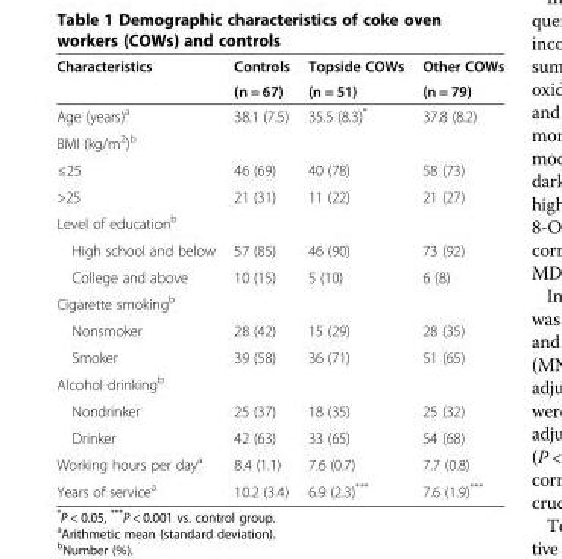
<table><thead><tr><td rowspan="2">Characteristics</td><td rowspan="2">Controls (n = 67)</td><td rowspan="2">Topside COWs (n = 51)</td><td rowspan="2">Other COWs (n = 79)</td></tr><tr></tr></thead><tbody><tr><td>Age (years)<sup>a</sup></td><td>38.1 (7.5)</td><td>35.5 (8.3)*</td><td>37.8 (8.2)</td></tr><tr><td colspan="4">BMI (kg/m<sup>2</sup>)<sup>b</sup></td></tr><tr><td>≤25</td><td>46 (69)</td><td>40 (78)</td><td>58 (73)</td></tr><tr><td>&gt;25</td><td>21 (31)</td><td>11 (22)</td><td>21 (27)</td></tr><tr><td colspan="4">Level of education<sup>b</sup></td></tr><tr><td>High school and below</td><td>57 (85)</td><td>46 (90)</td><td>73 (92)</td></tr><tr><td>College and above</td><td>10 (15)</td><td>5 (10)</td><td>6 (8)</td></tr><tr><td colspan="4">Cigarette smoking<sup>b</sup></td></tr><tr><td>Nonsmoker</td><td>28 (42)</td><td>15 (29)</td><td>28 (35)</td></tr><tr><td>Smoker</td><td>39 (58)</td><td>36 (71)</td><td>51 (65)</td></tr><tr><td colspan="4">Alcohol drinking<sup>b</sup></td></tr><tr><td>Nondrinker</td><td>25 (37)</td><td>18 (35)</td><td>25 (32)</td></tr><tr><td>Drinker</td><td>42 (63)</td><td>33 (65)</td><td>54 (68)</td></tr><tr><td>Working hours per day<sup>a</sup></td><td>8.4 (1.1)</td><td>7.6 (0.7)</td><td>7.7 (0.8)</td></tr><tr><td>Years of service<sup>a</sup></td><td>10.2 (3.4)</td><td>6.9 (2.3)***</td><td>7.6 (1.9)***</td></tr></tbody></table>